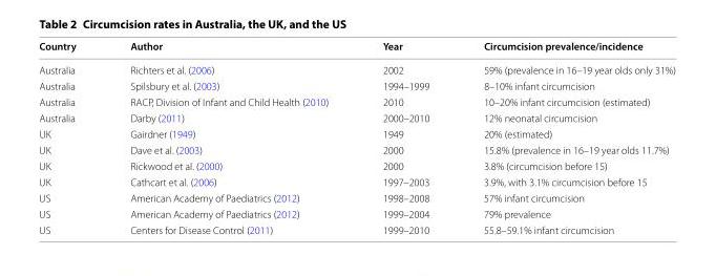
<table><thead><tr><td>Country</td><td>Author</td><td>Year</td><td>Circumcision prevalence/incidence</td></tr></thead><tbody><tr><td>Australia</td><td>Richters et al. (2006)</td><td>2002</td><td>59% (prevalence in 16–19 year olds only 31%)</td></tr><tr><td>Australia</td><td>Spilsbury et al. (2003)</td><td>1994–1999</td><td>8–10% infant circumcision</td></tr><tr><td>Australia</td><td>RACP, Division of Infant and Child Health (2010)</td><td>2010</td><td>10–20% infant circumcision (estimated)</td></tr><tr><td>Australia</td><td>Darby (2011)</td><td>2000–2010</td><td>12% neonatal circumcision</td></tr><tr><td>UK</td><td>Gairdner (1949)</td><td>1949</td><td>20% (estimated)</td></tr><tr><td>UK</td><td>Dave et al. (2003)</td><td>2000</td><td>15.8% (prevalence in 16–19 year olds 11.7%)</td></tr><tr><td>UK</td><td>Rickwood et al. (2000)</td><td>2000</td><td>3.8% (circumcision before 15)</td></tr><tr><td>UK</td><td>Cathcart et al. (2006)</td><td>1997–2003</td><td>3.9%, with 3.1% circumcision before 15</td></tr><tr><td>US</td><td>American Academy of Paediatrics (2012)</td><td>1998–2008</td><td>57% infant circumcision</td></tr><tr><td>US</td><td>American Academy of Paediatrics (2012)</td><td>1999–2004</td><td>79% prevalence</td></tr><tr><td>US</td><td>Centers for Disease Control (2011)</td><td>1999–2010</td><td>55.8–59.1% infant circumcision</td></tr></tbody></table>